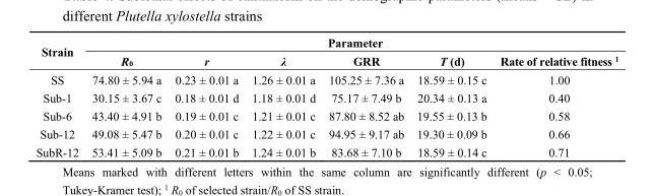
<table><thead><tr><td rowspan="2">Strain</td><td colspan="6">Parameter</td></tr><tr><td>R<sub>0</sub></td><td>r</td><td>λ</td><td>GRR</td><td>T (d)</td><td>Rate of relative fitness <sup>1</sup></td></tr></thead><tbody><tr><td>SS</td><td>74.80 ± 5.94 a</td><td>0.23 ± 0.01 a</td><td>1.26 ± 0.01 a</td><td>105.25 ± 7.36 a</td><td>18.59 ± 0.15 c</td><td>1.00</td></tr><tr><td>Sub-1</td><td>30.15 ± 3.67 c</td><td>0.18 ± 0.01 d</td><td>1.18 ± 0.01 d</td><td>75.17 ± 7.49 b</td><td>20.34 ± 0.13 a</td><td>0.40</td></tr><tr><td>Sub-6</td><td>43.40 ± 4.91 b</td><td>0.19 ± 0.01 c</td><td>1.21 ± 0.01 c</td><td>87.80 ± 8.52 ab</td><td>19.55 ± 0.13 b</td><td>0.58</td></tr><tr><td>Sub-12</td><td>49.08 ± 5.47 b</td><td>0.20 ± 0.01 c</td><td>1.22 ± 0.01 c</td><td>94.95 ± 9.17 ab</td><td>19.30 ± 0.09 b</td><td>0.66</td></tr><tr><td>SubR-12</td><td>53.41 ± 5.09 b</td><td>0.21 ± 0.01 b</td><td>1.24 ± 0.01 b</td><td>83.68 ± 7.10 b</td><td>18.59 ± 0.14 c</td><td>0.71</td></tr></tbody></table>